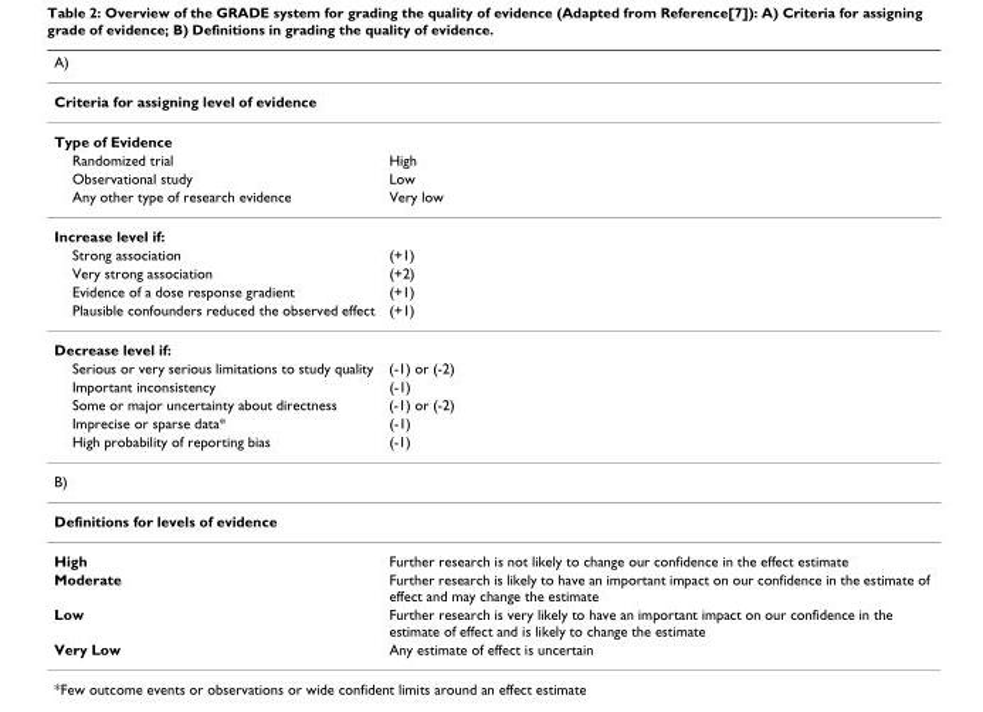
<table><thead><tr><td>A)</td><td></td></tr></thead><tbody><tr><td colspan="2">Criteria for assigning level of evidence</td></tr><tr><td colspan="2">Type of Evidence</td></tr><tr><td>Randomized trial</td><td>High</td></tr><tr><td>Observational study</td><td>Low</td></tr><tr><td>Any other type of research evidence</td><td>Very low</td></tr><tr><td colspan="2">Increase level if:</td></tr><tr><td>Strong association</td><td>(+1)</td></tr><tr><td>Very strong association</td><td>(+2)</td></tr><tr><td>Evidence of a dose response gradient</td><td>(+1)</td></tr><tr><td>Plausible confounders reduced the observed effect</td><td>(+1)</td></tr><tr><td colspan="2">Decrease level if:</td></tr><tr><td>Serious or very serious limitations to study quality</td><td>(-1) or (-2)</td></tr><tr><td>Important inconsistency</td><td>(-1)</td></tr><tr><td>Some or major uncertainty about directness</td><td>(-1) or (-2)</td></tr><tr><td>Imprecise or sparse data*</td><td>(-1)</td></tr><tr><td>High probability of reporting bias</td><td>(-1)</td></tr><tr><td colspan="2">B)</td></tr><tr><td colspan="2">Definitions for levels of evidence</td></tr><tr><td>High</td><td>Further research is not likely to change our confidence in the effect estimate</td></tr><tr><td>Moderate</td><td>Further research is likely to have an important impact on our confidence in the estimate of effect and may change the estimate</td></tr><tr><td>Low</td><td>Further research is very likely to have an important impact on our confidence in the estimate of effect and is likely to change the estimate</td></tr><tr><td>Very Low</td><td>Any estimate of effect is uncertain</td></tr></tbody></table>